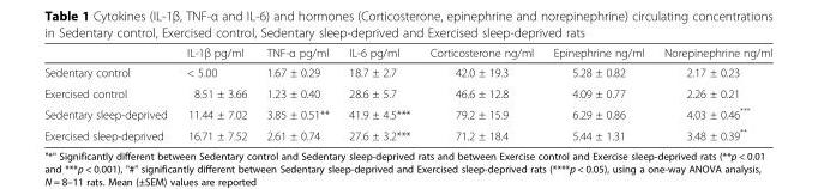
<table><thead><tr><td></td><td>IL-1β pg/ml</td><td>TNF-α pg/ml</td><td>IL-6 pg/ml</td><td>Corticosterone ng/ml</td><td>Epinephrine ng/ml</td><td>Norepinephrine ng/ml</td></tr></thead><tbody><tr><td>Sedentary control</td><td>&lt; 5.00</td><td>1.67 ± 0.29</td><td>18.7 ± 2.7</td><td>42.0 ± 19.3</td><td>5.28 ± 0.82</td><td>2.17 ± 0.23</td></tr><tr><td>Exercised control</td><td>8.51 ± 3.66</td><td>1.23 ± 0.40</td><td>28.6 ± 5.7</td><td>46.6 ± 12.8</td><td>4.09 ± 0.77</td><td>2.26 ± 0.21</td></tr><tr><td>Sedentary sleep-deprived</td><td>11.44 ± 7.02</td><td>3.85 ± 0.51**</td><td>41.9 ± 4.5***</td><td>79.2 ± 15.9</td><td>6.29 ± 0.86</td><td>4.03 ± 0.46***</td></tr><tr><td>Exercised sleep-deprived</td><td>16.71 ± 7.52</td><td>2.61 ± 0.74</td><td>27.6 ± 3.2***</td><td>71.2 ± 18.4</td><td>5.44 ± 1.31</td><td>3.48 ± 0.39**</td></tr></tbody></table>